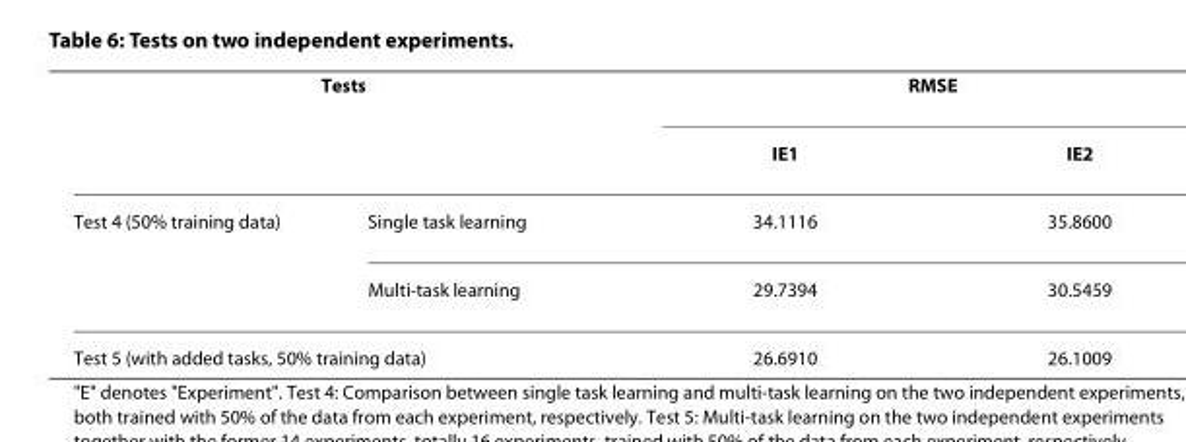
<table><thead><tr><td colspan="2">Tests</td><td colspan="2">RMSE</td></tr><tr><td></td><td></td><td>IE1</td><td>IE2</td></tr></thead><tbody><tr><td rowspan="2">Test 4 (50% training data)</td><td>Single task learning</td><td>34.1116</td><td>35.8600</td></tr><tr><td>Multi-task learning</td><td>29.7394</td><td>30.5459</td></tr><tr><td colspan="2">Test 5 (with added tasks, 50% training data)</td><td>26.6910</td><td>26.1009</td></tr></tbody></table>